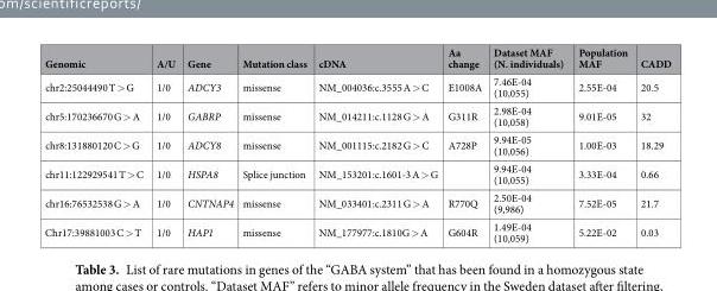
<table><thead><tr><td>Genomic</td><td>A/U</td><td>Gene</td><td>Mutation class</td><td>cDNA</td><td>Aa change</td><td>Dataset MAF (N. individuals)</td><td>Population MAF</td><td>CADD</td></tr></thead><tbody><tr><td>chr2:25044490 T &gt; G</td><td>1/0</td><td>ADCY3</td><td>missense</td><td>NM_004036:c.3555 A &gt; C</td><td>E1008A</td><td>7.46E-04 (10,055)</td><td>2.55E-04</td><td>20.5</td></tr><tr><td>chr5:170236670 G &gt; A</td><td>1/0</td><td>GABRP</td><td>missense</td><td>NM_014211:c.1128 G &gt; A</td><td>G311R</td><td>2.98E-04 (10,058)</td><td>9.01E-05</td><td>32</td></tr><tr><td>chr8:131880120 C &gt; G</td><td>1/0</td><td>ADCY8</td><td>missense</td><td>NM_001115:c.2182 G &gt; C</td><td>A728P</td><td>9.94E-05 (10,056)</td><td>1.00E-03</td><td>18.29</td></tr><tr><td>chr11:122929541 T &gt; C</td><td>1/0</td><td>HSPA8</td><td>Splice junction</td><td>NM_153201:c.1601-3 A &gt; G</td><td></td><td>9.94E-04 (10,055)</td><td>3.33E-04</td><td>0.66</td></tr><tr><td>chr16:76532538 G &gt; A</td><td>1/0</td><td>CNTNAP4</td><td>missense</td><td>NM_033401:c.2311 G &gt; A</td><td>R770Q</td><td>2.50E-04 (9,986)</td><td>7.52E-05</td><td>21.7</td></tr><tr><td>Chr17:39881003 C &gt; T</td><td>1/0</td><td>HAP1</td><td>missense</td><td>NM_177977:c.1810G &gt; A</td><td>G604R</td><td>1.49E-04 (10,059)</td><td>5.22E-02</td><td>0.03</td></tr></tbody></table>